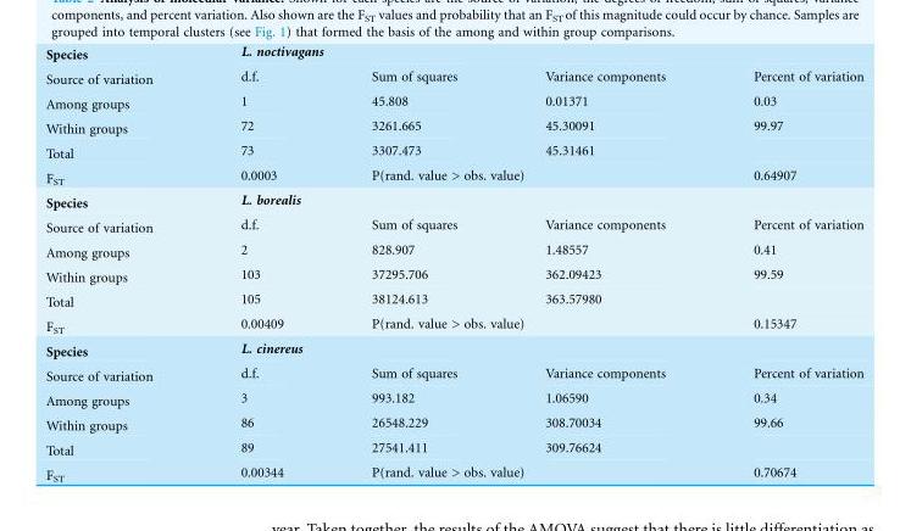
<table><tbody><tr><td>Species</td><td colspan="4">L. noctivagans</td></tr><tr><td>Source of variation</td><td>d.f.</td><td>Sum of squares</td><td>Variance components</td><td>Percent of variation</td></tr><tr><td>Among groups</td><td>1</td><td>45.808</td><td>0.01371</td><td>0.03</td></tr><tr><td>Within groups</td><td>72</td><td>3261.665</td><td>45.30091</td><td>99.97</td></tr><tr><td>Total</td><td>73</td><td>3307.473</td><td>45.31461</td><td></td></tr><tr><td>F<sub>ST</sub></td><td>0.0003</td><td colspan="2">P(rand. value &gt; obs. value)</td><td>0.64907</td></tr><tr><td>Species</td><td colspan="4">L. borealis</td></tr><tr><td>Source of variation</td><td>d.f.</td><td>Sum of squares</td><td>Variance components</td><td>Percent of variation</td></tr><tr><td>Among groups</td><td>2</td><td>828.907</td><td>1.48557</td><td>0.41</td></tr><tr><td>Within groups</td><td>103</td><td>37295.706</td><td>362.09423</td><td>99.59</td></tr><tr><td>Total</td><td>105</td><td>38124.613</td><td>363.57980</td><td></td></tr><tr><td>F<sub>ST</sub></td><td>0.00409</td><td colspan="2">P(rand. value &gt; obs. value)</td><td>0.15347</td></tr><tr><td>Species</td><td colspan="4">L. cinereus</td></tr><tr><td>Source of variation</td><td>d.f.</td><td>Sum of squares</td><td>Variance components</td><td>Percent of variation</td></tr><tr><td>Among groups</td><td>3</td><td>993.182</td><td>1.06590</td><td>0.34</td></tr><tr><td>Within groups</td><td>86</td><td>26548.229</td><td>308.70034</td><td>99.66</td></tr><tr><td>Total</td><td>89</td><td>27541.411</td><td>309.76624</td><td></td></tr><tr><td>F<sub>ST</sub></td><td>0.00344</td><td colspan="2">P(rand. value &gt; obs. value)</td><td>0.70674</td></tr></tbody></table>